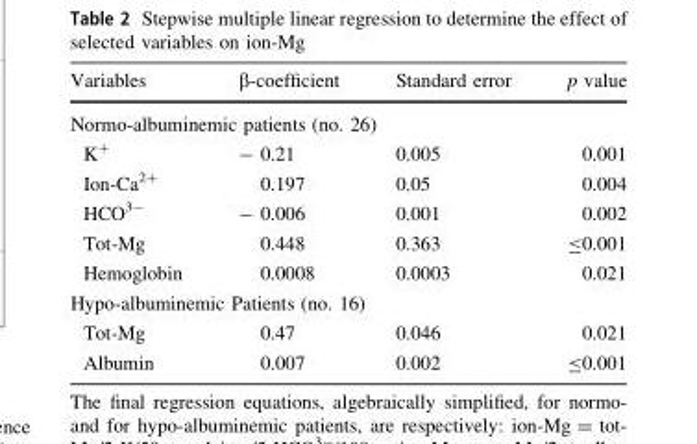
<table><thead><tr><td>Variables</td><td>β-coefficient</td><td>Standard error</td><td>p value</td></tr></thead><tbody><tr><td colspan="4">Normo-albuminemic patients (no. 26)</td></tr><tr><td>K<sup>+</sup></td><td>- 0.21</td><td>0.005</td><td>0.001</td></tr><tr><td>Ion-Ca<sup>2+</sup></td><td>0.197</td><td>0.05</td><td>0.004</td></tr><tr><td>HCO<sup>3-</sup></td><td>- 0.006</td><td>0.001</td><td>0.002</td></tr><tr><td>Tot-Mg</td><td>0.448</td><td>0.363</td><td>≤0.001</td></tr><tr><td>Hemoglobin</td><td>0.0008</td><td>0.0003</td><td>0.021</td></tr><tr><td colspan="4">Hypo-albuminemic Patients (no. 16)</td></tr><tr><td>Tot-Mg</td><td>0.47</td><td>0.046</td><td>0.021</td></tr><tr><td>Albumin</td><td>0.007</td><td>0.002</td><td>≤0.001</td></tr></tbody></table>